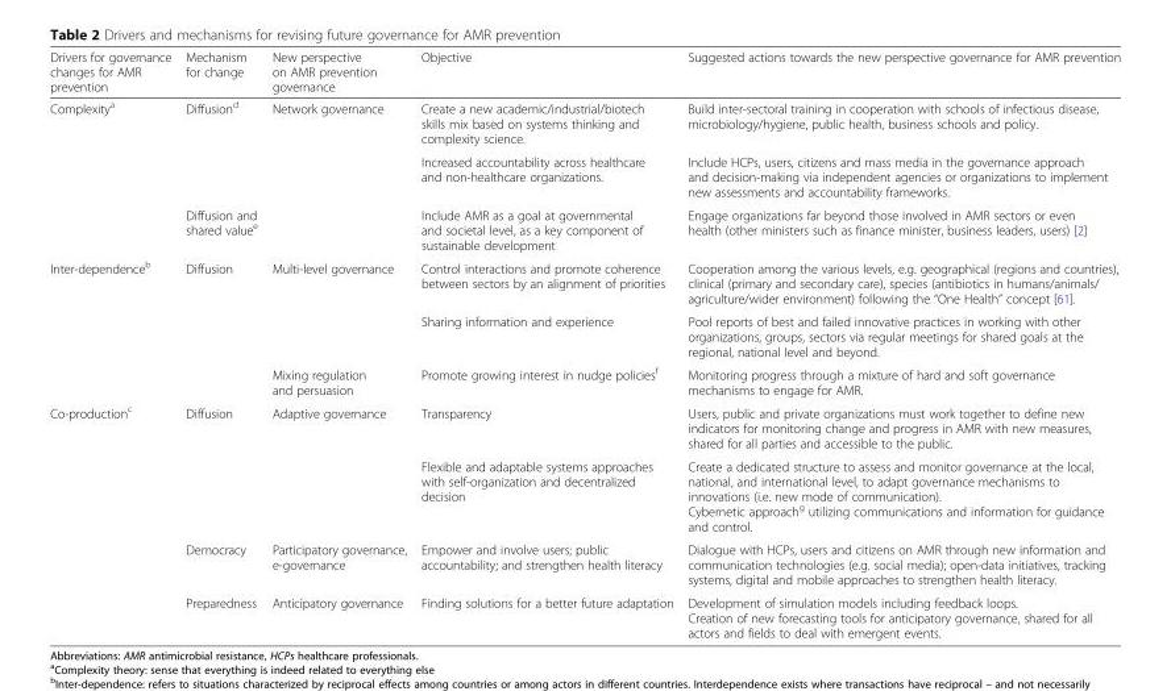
<table><thead><tr><td>Drivers for governance changes for AMR prevention</td><td>Mechanism for change</td><td>New perspective on AMR prevention governance</td><td>Objective</td><td>Suggested actions towards the new perspective governance for AMR prevention</td></tr></thead><tbody><tr><td rowspan="3">Complexity<sup>a</sup></td><td rowspan="2">Diffusion<sup>d</sup></td><td rowspan="3">Network governance</td><td>Create a new academic/industrial/biotech skills mix based on systems thinking and complexity science.</td><td>Build inter-sectoral training in cooperation with schools of infectious disease, microbiology/hygiene, public health, business schools and policy.</td></tr><tr><td>Increased accountability across healthcare and non-healthcare organizations.</td><td>Include HCPs, users, citizens and mass media in the governance approach and decision-making via independent agencies or organizations to implement new assessments and accountability frameworks.</td></tr><tr><td>Diffusion and shared value<sup>e</sup></td><td>Include AMR as a goal at governmental and societal level, as a key component of sustainable development</td><td>Engage organizations far beyond those involved in AMR sectors or even health (other ministers such as finance minister, business leaders, users) [2]</td></tr><tr><td rowspan="3">Inter-dependence<sup>b</sup></td><td rowspan="3">Diffusion</td><td rowspan="2">Multi-level governance</td><td>Control interactions and promote coherence between sectors by an alignment of priorities</td><td>Cooperation among the various levels, e.g. geographical (regions and countries), clinical (primary and secondary care), species (antibiotics in humans/animals/ agriculture/wider environment) following the “One Health” concept [61].</td></tr><tr><td>Sharing information and experience</td><td>Pool reports of best and failed innovative practices in working with other organizations, groups, sectors via regular meetings for shared goals at the regional, national level and beyond.</td></tr><tr><td>Mixing regulation and persuasion</td><td>Promote growing interest in nudge policies<sup>f</sup></td><td>Monitoring progress through a mixture of hard and soft governance mechanisms to engage for AMR.</td></tr><tr><td rowspan="4">Co-production<sup>c</sup></td><td rowspan="2">Diffusion</td><td rowspan="2">Adaptive governance</td><td>Transparency</td><td>Users, public and private organizations must work together to define new indicators for monitoring change and progress in AMR with new measures, shared for all parties and accessible to the public.</td></tr><tr><td>Flexible and adaptable systems approaches with self-organization and decentralized decision</td><td>Create a dedicated structure to assess and monitor governance at the local, national, and international level, to adapt governance mechanisms to innovations (i.e. new mode of communication). Cybernetic approach<sup>g</sup> utilizing communications and information for guidance and control.</td></tr><tr><td>Democracy</td><td>Participatory governance, e-governance</td><td>Empower and involve users; public accountability; and strengthen health literacy</td><td>Dialogue with HCPs, users and citizens on AMR through new information and communication technologies (e.g. social media); open-data initiatives, tracking systems, digital and mobile approaches to strengthen health literacy.</td></tr><tr><td>Preparedness</td><td>Anticipatory governance</td><td>Finding solutions for a better future adaptation</td><td>Development of simulation models including feedback loops. Creation of new forecasting tools for anticipatory governance, shared for all actors and fields to deal with emergent events.</td></tr></tbody></table>